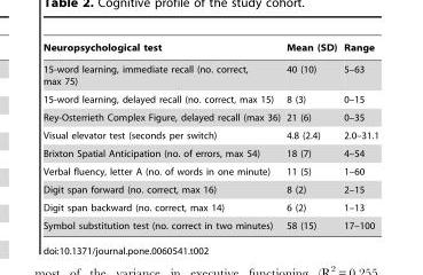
<table><thead><tr><td>Neuropsychological test</td><td>Mean (SD)</td><td>Range</td></tr></thead><tbody><tr><td>15-word learning, immediate recall (no. correct, max 75)</td><td>40 (10)</td><td>5–63</td></tr><tr><td>15-word learning, delayed recall (no. correct, max 15)</td><td>8 (3)</td><td>0–15</td></tr><tr><td>Rey-Osterrieth Complex Figure, delayed recall (max 36)</td><td>21 (6)</td><td>0–35</td></tr><tr><td>Visual elevator test (seconds per switch)</td><td>4.8 (2.4)</td><td>2.0–31.1</td></tr><tr><td>Brixton Spatial Anticipation (no. of errors, max 54)</td><td>18 (7)</td><td>4–54</td></tr><tr><td>Verbal fluency, letter A (no. of words in one minute)</td><td>11 (5)</td><td>1–60</td></tr><tr><td>Digit span forward (no. correct, max 16)</td><td>8 (2)</td><td>2–15</td></tr><tr><td>Digit span backward (no. correct, max 14)</td><td>6 (2)</td><td>1–13</td></tr><tr><td>Symbol substitution test (no. correct in two minutes)</td><td>58 (15)</td><td>17–100</td></tr></tbody></table>